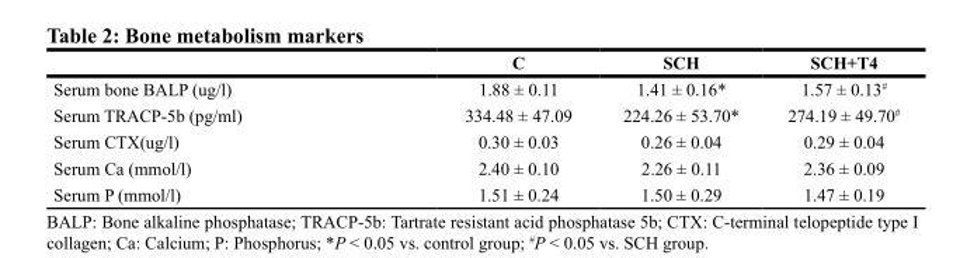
<table><thead><tr><td></td><td>C</td><td>SCH</td><td>SCH+T4</td></tr></thead><tbody><tr><td>Serum bone BALP (ug/l)</td><td>1.88 ± 0.11</td><td>1.41 ± 0.16*</td><td>1.57 ± 0.13<sup>#</sup></td></tr><tr><td>Serum TRACP-5b (pg/ml)</td><td>334.48 ± 47.09</td><td>224.26 ± 53.70*</td><td>274.19 ± 49.70<sup>#</sup></td></tr><tr><td>Serum CTX(ug/l)</td><td>0.30 ± 0.03</td><td>0.26 ± 0.04</td><td>0.29 ± 0.04</td></tr><tr><td>Serum Ca (mmol/l)</td><td>2.40 ± 0.10</td><td>2.26 ± 0.11</td><td>2.36 ± 0.09</td></tr><tr><td>Serum P (mmol/l)</td><td>1.51 ± 0.24</td><td>1.50 ± 0.29</td><td>1.47 ± 0.19</td></tr></tbody></table>